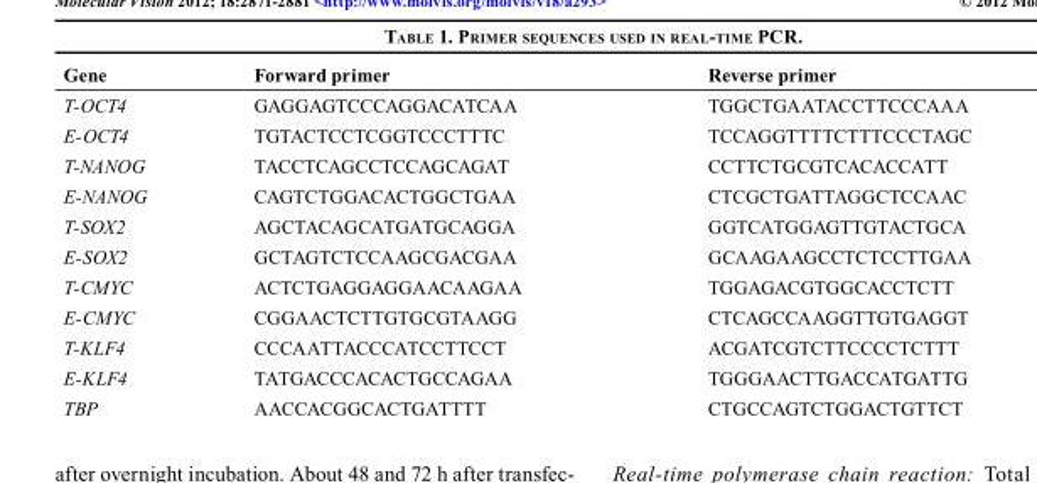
<table><thead><tr><td>Gene</td><td>Forward primer</td><td>Reverse primer</td></tr></thead><tbody><tr><td>T-OCT4</td><td>GAGGAGTCCCAGGACATCAA</td><td>TGGCTGAATACCTTCCCAAA</td></tr><tr><td>E-OCT4</td><td>TGTACTCCTCGGTCCCTTTC</td><td>TCCAGGTTTTCTTTCCCTAGC</td></tr><tr><td>T-NANOG</td><td>TACCTCAGCCTCCAGCAGAT</td><td>CCTTCTGCGTCACACCATT</td></tr><tr><td>E-NANOG</td><td>CAGTCTGGACACTGGCTGAA</td><td>CTCGCTGATTAGGCTCCAAC</td></tr><tr><td>T-SOX2</td><td>AGCTACAGCATGATGCAGGA</td><td>GGTCATGGAGTTGTACTGCA</td></tr><tr><td>E-SOX2</td><td>GCTAGTCTCCAAGCGACGAA</td><td>GCAAGAAGCCTCTCCTTGAA</td></tr><tr><td>T-CMYC</td><td>ACTCTGAGGAGGAACAAGAA</td><td>TGGAGACGTGGCACCTCTT</td></tr><tr><td>E-CMYC</td><td>CGGAACTCTTGTGCGTAAGG</td><td>CTCAGCCAAGGTTGTGAGGT</td></tr><tr><td>T-KLF4</td><td>CCCAATTACCCATCCTTCCT</td><td>ACGATCGTCTTCCCCTCTTT</td></tr><tr><td>E-KLF4</td><td>TATGACCCACACTGCCAGAA</td><td>TGGGAACTTGACCATGATTG</td></tr><tr><td>TBP</td><td>AACCACGGCACTGATTTT</td><td>CTGCCAGTCTGGACTGTTCT</td></tr></tbody></table>